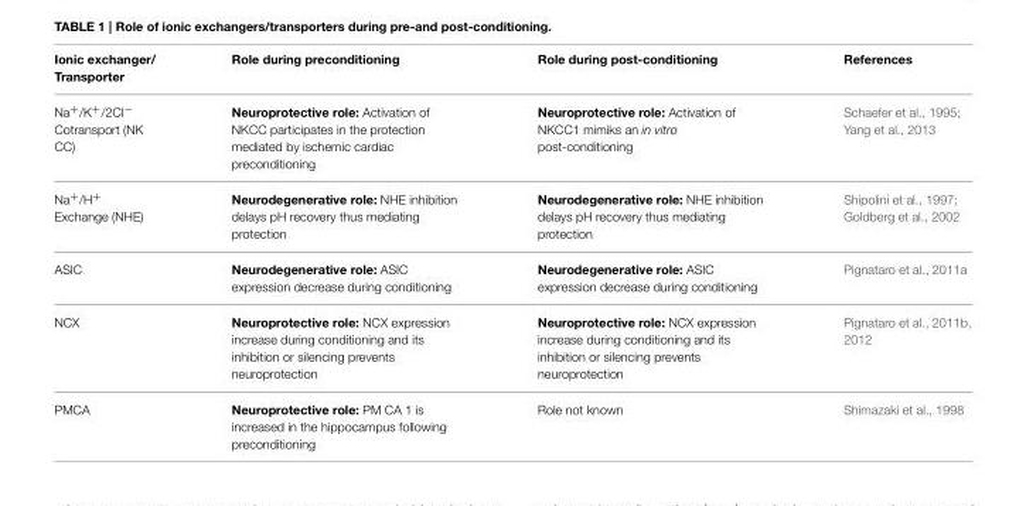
<table><thead><tr><td>Ionic exchanger/ Transporter</td><td>Role during preconditioning</td><td>Role during post-conditioning</td><td>References</td></tr></thead><tbody><tr><td>Na<sup>+</sup>/K<sup>+</sup>/2CI<sup>−</sup> Cotransport (NK CC)</td><td>Neuroprotective role: Activation of NKCC participates in the protection mediated by ischemic cardiac preconditioning</td><td>Neuroprotective role: Activation of NKCC1 mimiks an in vitro post-conditioning</td><td>Schaefer et al., 1995; Yang et al., 2013</td></tr><tr><td>Na<sup>+</sup>/H<sup>+</sup> Exchange (NHE)</td><td>Neurodegenerative role: NHE inhibition delays pH recovery thus mediating protection</td><td>Neurodegenerative role: NHE inhibition delays pH recovery thus mediating protection</td><td>Shipolini et al., 1997; Goldberg et al., 2002</td></tr><tr><td>ASIC</td><td>Neurodegenerative role: ASIC expression decrease during conditioning</td><td>Neurodegenerative role: ASIC expression decrease during conditioning</td><td>Pignataro et al., 2011a</td></tr><tr><td>NCX</td><td>Neuroprotective role: NCX expression increase during conditioning and its inhibition or silencing prevents neuroprotection</td><td>Neuroprotective role: NCX expression increase during conditioning and its inhibition or silencing prevents neuroprotection</td><td>Pignataro et al., 2011b, 2012</td></tr><tr><td>PMCA</td><td>Neuroprotective role: PM CA 1 is increased in the hippocampus following preconditioning</td><td>Role not known</td><td>Shimazaki et al., 1998</td></tr></tbody></table>